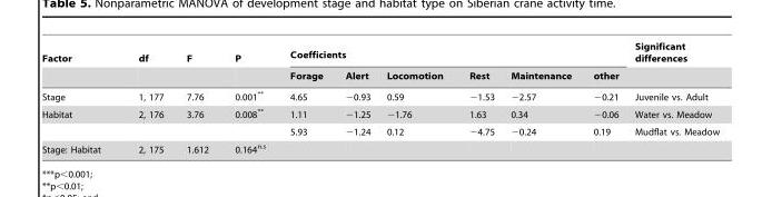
<table><thead><tr><td rowspan="2">Factor</td><td rowspan="2">df</td><td rowspan="2">F</td><td rowspan="2">P</td><td colspan="6">Coefficients</td><td rowspan="2">Significant differences</td></tr><tr><td>Forage</td><td>Alert</td><td>Locomotion</td><td>Rest</td><td>Maintenance</td><td>other</td></tr></thead><tbody><tr><td>Stage</td><td>1, 177</td><td>7.76</td><td>0.001**</td><td>4.65</td><td>−0.93</td><td>0.59</td><td>−1.53</td><td>−2.57</td><td>−0.21</td><td>Juvenile vs. Adult</td></tr><tr><td rowspan="2">Habitat</td><td>2, 176</td><td>3.76</td><td>0.008**</td><td>1.11</td><td>−1.25</td><td>−1.76</td><td>1.63</td><td>0.34</td><td>−0.06</td><td>Water vs. Meadow</td></tr><tr><td></td><td></td><td></td><td>5.93</td><td>−1.24</td><td>0.12</td><td>−4.75</td><td>−0.24</td><td>0.19</td><td>Mudflat vs. Meadow</td></tr><tr><td>Stage: Habitat</td><td>2, 175</td><td>1.612</td><td>0.164n.s</td><td></td><td></td><td></td><td></td><td></td><td></td><td></td></tr></tbody></table>